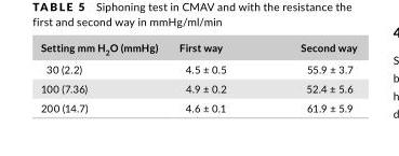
<table><thead><tr><td>Setting mm H<sub>2</sub>O (mmHg)</td><td>First way</td><td>Second way</td></tr></thead><tbody><tr><td>30 (2.2)</td><td>4.5 ± 0.5</td><td>55.9 ± 3.7</td></tr><tr><td>100 (7.36)</td><td>4.9 ± 0.2</td><td>52.4 ± 5.6</td></tr><tr><td>200 (14.7)</td><td>4.6 ± 0.1</td><td>61.9 ± 5.9</td></tr></tbody></table>